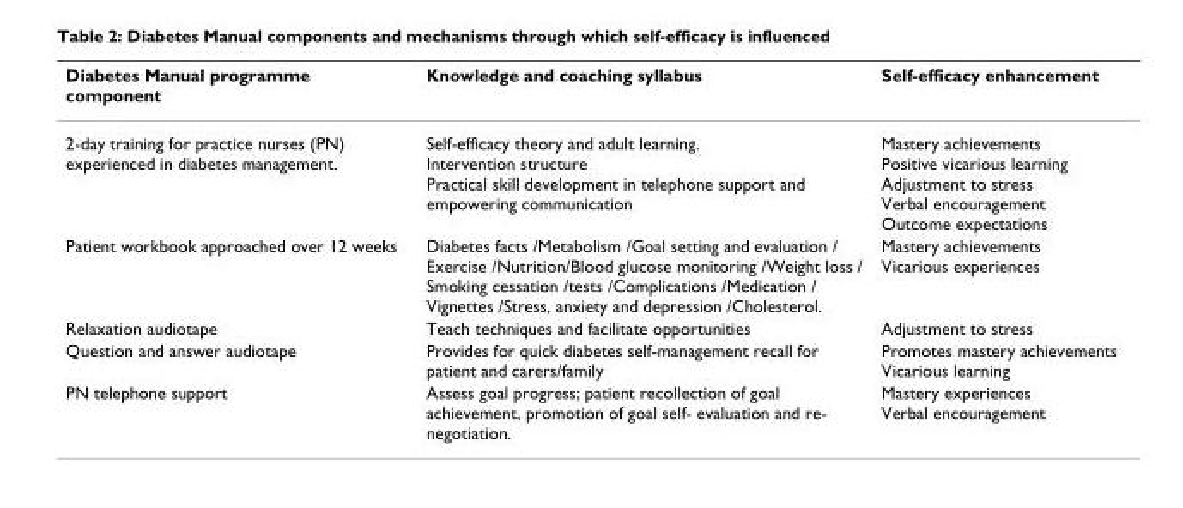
<table><thead><tr><td>Diabetes Manual programme component</td><td>Knowledge and coaching syllabus</td><td>Self-efficacy enhancement</td></tr></thead><tbody><tr><td>2-day training for practice nurses (PN) experienced in diabetes management.</td><td>Self-efficacy theory and adult learning. Intervention structure Practical skill development in telephone support and empowering communication</td><td>Mastery achievements Positive vicarious learning Adjustment to stress Verbal encouragement Outcome expectations</td></tr><tr><td>Patient workbook approached over 12 weeks</td><td>Diabetes facts /Metabolism /Goal setting and evaluation / Exercise /Nutrition/Blood glucose monitoring /Weight loss / Smoking cessation /tests /Complications /Medication / Vignettes /Stress, anxiety and depression /Cholesterol.</td><td>Mastery achievements Vicarious experiences</td></tr><tr><td>Relaxation audiotape</td><td>Teach techniques and facilitate opportunities</td><td>Adjustment to stress</td></tr><tr><td>Question and answer audiotape</td><td>Provides for quick diabetes self-management recall for patient and carers/family</td><td>Promotes mastery achievements Vicarious learning</td></tr><tr><td>PN telephone support</td><td>Assess goal progress; patient recollection of goal achievement, promotion of goal self- evaluation and re- negotiation.</td><td>Mastery experiences Verbal encouragement</td></tr></tbody></table>